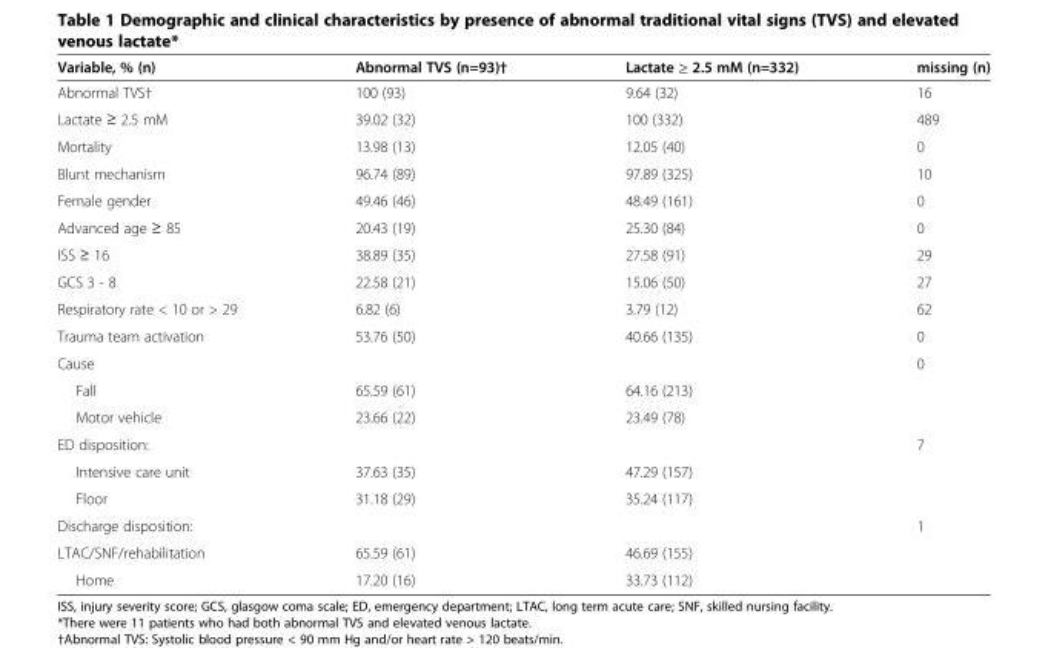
<table><thead><tr><td>Variable, % (n)</td><td>Abnormal TVS (n=93)†</td><td>Lactate ≥ 2.5 mM (n=332)</td><td>missing (n)</td></tr></thead><tbody><tr><td>Abnormal TVS†</td><td>100 (93)</td><td>9.64 (32)</td><td>16</td></tr><tr><td>Lactate ≥ 2.5 mM</td><td>39.02 (32)</td><td>100 (332)</td><td>489</td></tr><tr><td>Mortality</td><td>13.98 (13)</td><td>12.05 (40)</td><td>0</td></tr><tr><td>Blunt mechanism</td><td>96.74 (89)</td><td>97.89 (325)</td><td>10</td></tr><tr><td>Female gender</td><td>49.46 (46)</td><td>48.49 (161)</td><td>0</td></tr><tr><td>Advanced age ≥ 85</td><td>20.43 (19)</td><td>25.30 (84)</td><td>0</td></tr><tr><td>ISS ≥ 16</td><td>38.89 (35)</td><td>27.58 (91)</td><td>29</td></tr><tr><td>GCS 3 - 8</td><td>22.58 (21)</td><td>15.06 (50)</td><td>27</td></tr><tr><td>Respiratory rate &lt; 10 or &gt; 29</td><td>6.82 (6)</td><td>3.79 (12)</td><td>62</td></tr><tr><td>Trauma team activation</td><td>53.76 (50)</td><td>40.66 (135)</td><td>0</td></tr><tr><td>Cause</td><td></td><td></td><td>0</td></tr><tr><td>Fall</td><td>65.59 (61)</td><td>64.16 (213)</td><td></td></tr><tr><td>Motor vehicle</td><td>23.66 (22)</td><td>23.49 (78)</td><td></td></tr><tr><td>ED disposition:</td><td></td><td></td><td>7</td></tr><tr><td>Intensive care unit</td><td>37.63 (35)</td><td>47.29 (157)</td><td></td></tr><tr><td>Floor</td><td>31.18 (29)</td><td>35.24 (117)</td><td></td></tr><tr><td>Discharge disposition:</td><td></td><td></td><td>1</td></tr><tr><td>LTAC/SNF/rehabilitation</td><td>65.59 (61)</td><td>46.69 (155)</td><td></td></tr><tr><td>Home</td><td>17.20 (16)</td><td>33.73 (112)</td><td></td></tr></tbody></table>